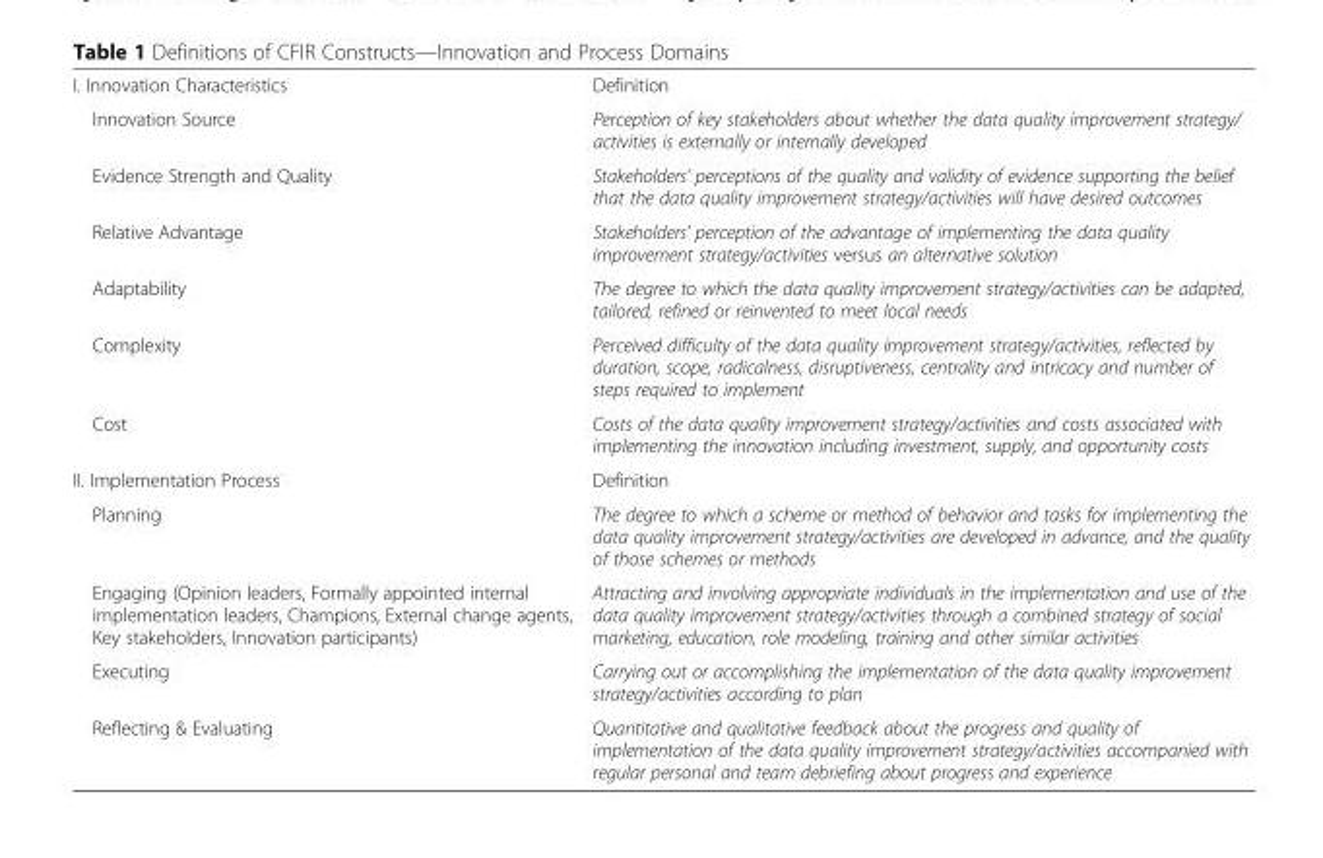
<table><tbody><tr><td>I. Innovation Characteristics</td><td>Definition</td></tr><tr><td>Innovation Source</td><td>Perception of key stakeholders about whether the data quality improvement strategy/ activities is externally or internally developed</td></tr><tr><td>Evidence Strength and Quality</td><td>Stakeholders’ perceptions of the quality and validity of evidence supporting the belief that the data quality improvement strategy/activities will have desired outcomes</td></tr><tr><td>Relative Advantage</td><td>Stakeholders’ perception of the advantage of implementing the data quality improvement strategy/activities versus an alternative solution</td></tr><tr><td>Adaptability</td><td>The degree to which the data quality improvement strategy/activities can be adapted, tailored, refined or reinvented to meet local needs</td></tr><tr><td>Complexity</td><td>Perceived difficulty of the data quality improvement strategy/activities, reflected by duration, scope, radicalness, disruptiveness, centrality and intricacy and number of steps required to implement</td></tr><tr><td>Cost</td><td>Costs of the data quality improvement strategy/activities and costs associated with implementing the innovation including investment, supply, and opportunity costs</td></tr><tr><td>II. Implementation Process</td><td>Definition</td></tr><tr><td>Planning</td><td>The degree to which a scheme or method of behavior and tasks for implementing the data quality improvement strategy/activities are developed in advance, and the quality of those schemes or methods</td></tr><tr><td>Engaging (Opinion leaders, Formally appointed internal implementation leaders, Champions, External change agents, Key stakeholders, Innovation participants)</td><td>Attracting and involving appropriate individuals in the implementation and use of the data quality improvement strategy/activities through a combined strategy of social marketing, education, role modeling, training and other similar activities</td></tr><tr><td>Executing</td><td>Carrying out or accomplishing the implementation of the data quality improvement strategy/activities according to plan</td></tr><tr><td>Reflecting &amp; Evaluating</td><td>Quantitative and qualitative feedback about the progress and quality of implementation of the data quality improvement strategy/activities accompanied with regular personal and team debriefing about progress and experience</td></tr></tbody></table>